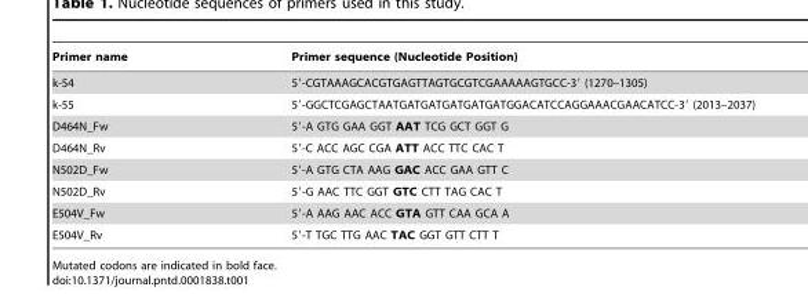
<table><thead><tr><td>Primer name</td><td>Primer sequence (Nucleotide Position)</td></tr></thead><tbody><tr><td>k-54</td><td>5′-CGTAAAGCACGTGAGTTAGTGCGTCGAAAAAGTGCC-3′ (1270–1305)</td></tr><tr><td>k-55</td><td>5′-GGCTCGAGCTAATGATGATGATGATGATGGACATCCAGGAAACGAACATCC-3′ (2013–2037)</td></tr><tr><td>D464N_Fw</td><td>5′-A GTG GAA GGT AAT TCG GCT GGT G</td></tr><tr><td>D464N_Rv</td><td>5′-C ACC AGC CGA ATT ACC TTC CAC T</td></tr><tr><td>N502D_Fw</td><td>5′-A GTG CTA AAG GAC ACC GAA GTT C</td></tr><tr><td>N502D_Rv</td><td>5′-G AAC TTC GGT GTC CTT TAG CAC T</td></tr><tr><td>E504V_Fw</td><td>5′-A AAG AAC ACC GTA GTT CAA GCA A</td></tr><tr><td>E504V_Rv</td><td>5′-T TGC TTG AAC TAC GGT GTT CTT T</td></tr></tbody></table>